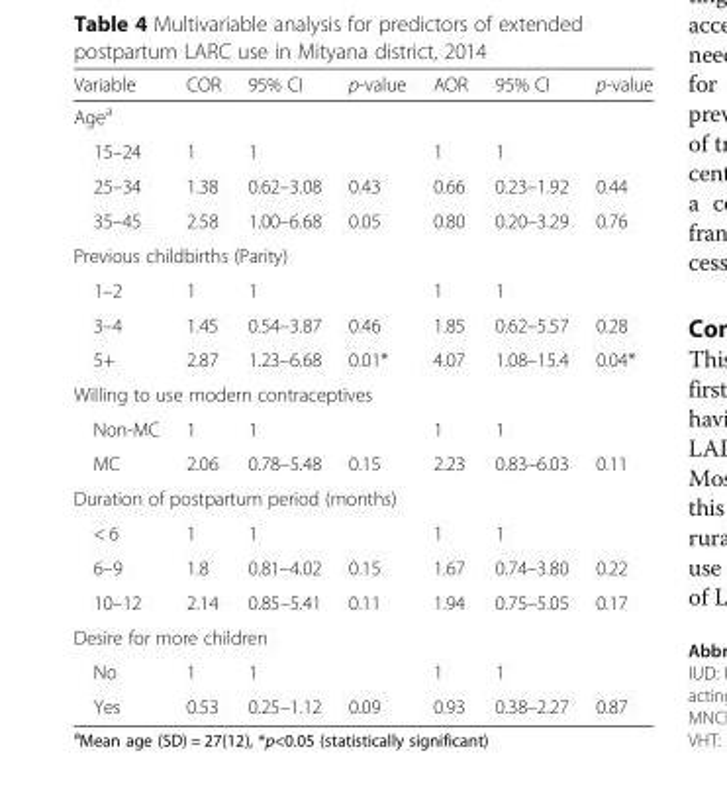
<table><thead><tr><td>Variable</td><td>COR</td><td>95% CI</td><td>p-value</td><td>AOR</td><td>95% CI</td><td>p-value</td></tr></thead><tbody><tr><td colspan="7">Age<sup>a</sup></td></tr><tr><td>15–24</td><td>1</td><td>1</td><td></td><td>1</td><td>1</td><td></td></tr><tr><td>25–34</td><td>1.38</td><td>0.62–3.08</td><td>0.43</td><td>0.66</td><td>0.23–1.92</td><td>0.44</td></tr><tr><td>35–45</td><td>2.58</td><td>1.00–6.68</td><td>0.05</td><td>0.80</td><td>0.20–3.29</td><td>0.76</td></tr><tr><td colspan="7">Previous childbirths (Parity)</td></tr><tr><td>1–2</td><td>1</td><td>1</td><td></td><td>1</td><td>1</td><td></td></tr><tr><td>3–4</td><td>1.45</td><td>0.54–3.87</td><td>0.46</td><td>1.85</td><td>0.62–5.57</td><td>0.28</td></tr><tr><td>5+</td><td>2.87</td><td>1.23–6.68</td><td>0.01*</td><td>4.07</td><td>1.08–15.4</td><td>0.04*</td></tr><tr><td colspan="7">Willing to use modern contraceptives</td></tr><tr><td>Non-MC</td><td>1</td><td>1</td><td></td><td>1</td><td>1</td><td></td></tr><tr><td>MC</td><td>2.06</td><td>0.78–5.48</td><td>0.15</td><td>2.23</td><td>0.83–6.03</td><td>0.11</td></tr><tr><td colspan="7">Duration of postpartum period (months)</td></tr><tr><td>&lt; 6</td><td>1</td><td>1</td><td></td><td>1</td><td>1</td><td></td></tr><tr><td>6–9</td><td>1.8</td><td>0.81–4.02</td><td>0.15</td><td>1.67</td><td>0.74–3.80</td><td>0.22</td></tr><tr><td>10–12</td><td>2.14</td><td>0.85–5.41</td><td>0.11</td><td>1.94</td><td>0.75–5.05</td><td>0.17</td></tr><tr><td colspan="7">Desire for more children</td></tr><tr><td>No</td><td>1</td><td>1</td><td></td><td>1</td><td>1</td><td></td></tr><tr><td>Yes</td><td>0.53</td><td>0.25–1.12</td><td>0.09</td><td>0.93</td><td>0.38–2.27</td><td>0.87</td></tr></tbody></table>